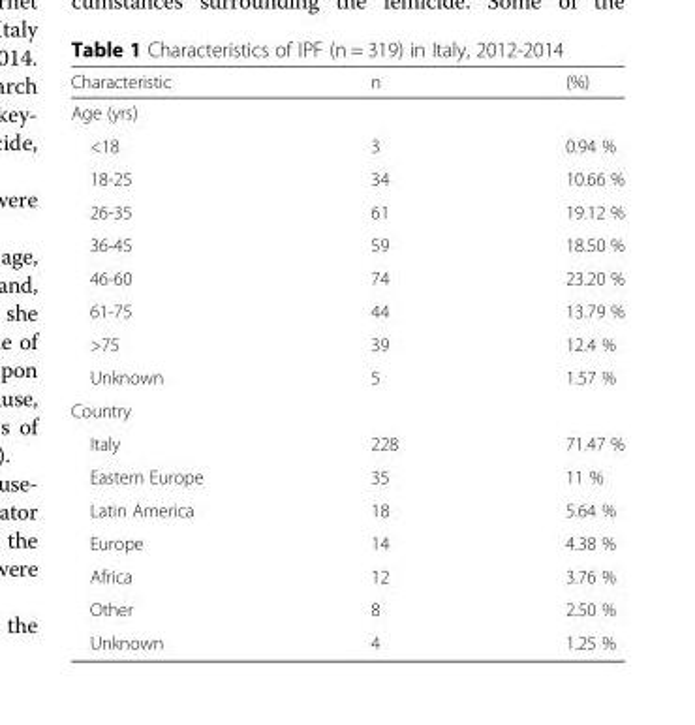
<table><thead><tr><td>Characteristic</td><td>n</td><td>(%)</td></tr></thead><tbody><tr><td colspan="3">Age (yrs)</td></tr><tr><td>&lt;18</td><td>3</td><td>0.94 %</td></tr><tr><td>18-25</td><td>34</td><td>10.66 %</td></tr><tr><td>26-35</td><td>61</td><td>19.12 %</td></tr><tr><td>36-45</td><td>59</td><td>18.50 %</td></tr><tr><td>46-60</td><td>74</td><td>23.20 %</td></tr><tr><td>61-75</td><td>44</td><td>13.79 %</td></tr><tr><td>&gt;75</td><td>39</td><td>12.4 %</td></tr><tr><td>Unknown</td><td>5</td><td>1.57 %</td></tr><tr><td colspan="3">Country</td></tr><tr><td>Italy</td><td>228</td><td>71.47 %</td></tr><tr><td>Eastern Europe</td><td>35</td><td>11 %</td></tr><tr><td>Latin America</td><td>18</td><td>5.64 %</td></tr><tr><td>Europe</td><td>14</td><td>4.38 %</td></tr><tr><td>Africa</td><td>12</td><td>3.76 %</td></tr><tr><td>Other</td><td>8</td><td>2.50 %</td></tr><tr><td>Unknown</td><td>4</td><td>1.25 %</td></tr></tbody></table>